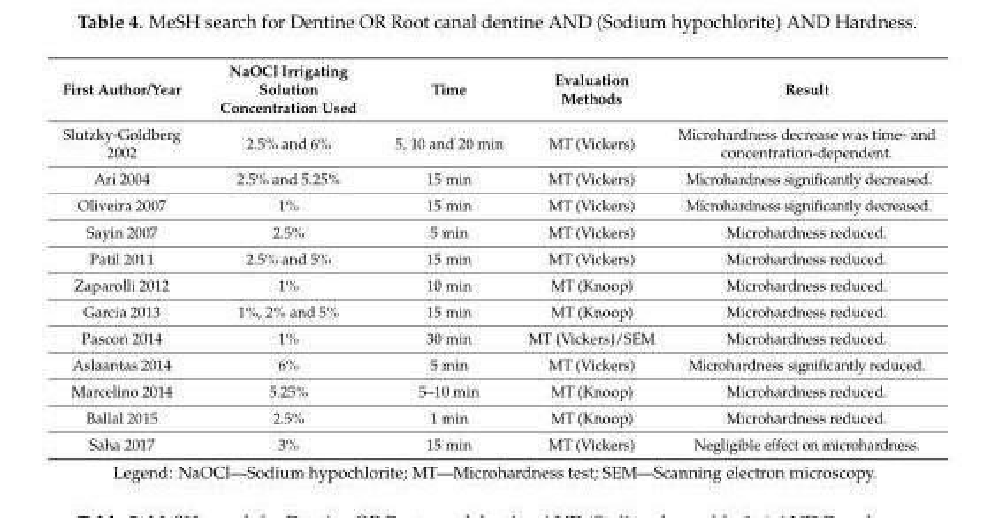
<table><thead><tr><td>First Author/Year</td><td>NaOCl Irrigating Solution Concentration Used</td><td>Time</td><td>Evaluation Methods</td><td>Result</td></tr></thead><tbody><tr><td>Slutzky-Goldberg 2002</td><td>2.5% and 6%</td><td>5, 10 and 20 min</td><td>MT (Vickers)</td><td>Microhardness decrease was time- and concentration-dependent.</td></tr><tr><td>Ari 2004</td><td>2.5% and 5.25%</td><td>15 min</td><td>MT (Vickers)</td><td>Microhardness significantly decreased.</td></tr><tr><td>Oliveira 2007</td><td>1%</td><td>15 min</td><td>MT (Vickers)</td><td>Microhardness significantly decreased.</td></tr><tr><td>Sayin 2007</td><td>2.5%</td><td>5 min</td><td>MT (Vickers)</td><td>Microhardness reduced.</td></tr><tr><td>Patil 2011</td><td>2.5% and 5%</td><td>15 min</td><td>MT (Vickers)</td><td>Microhardness reduced.</td></tr><tr><td>Zaparolli 2012</td><td>1%</td><td>10 min</td><td>MT (Knoop)</td><td>Microhardness reduced.</td></tr><tr><td>Garcia 2013</td><td>1%, 2% and 5%</td><td>15 min</td><td>MT (Knoop)</td><td>Microhardness reduced.</td></tr><tr><td>Pascon 2014</td><td>1%</td><td>30 min</td><td>MT (Vickers)/SEM</td><td>Microhardness reduced.</td></tr><tr><td>Aslaantas 2014</td><td>6%</td><td>5 min</td><td>MT (Vickers)</td><td>Microhardness significantly reduced.</td></tr><tr><td>Marcelino 2014</td><td>5.25%</td><td>5–10 min</td><td>MT (Knoop)</td><td>Microhardness reduced.</td></tr><tr><td>Ballal 2015</td><td>2.5%</td><td>1 min</td><td>MT (Knoop)</td><td>Microhardness reduced.</td></tr><tr><td>Saha 2017</td><td>3%</td><td>15 min</td><td>MT (Vickers)</td><td>Negligible effect on microhardness.</td></tr></tbody></table>